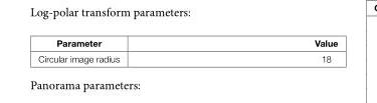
<table><thead><tr><td>Parameter</td><td>Value</td></tr></thead><tbody><tr><td>Circular image radius</td><td>18</td></tr></tbody></table>